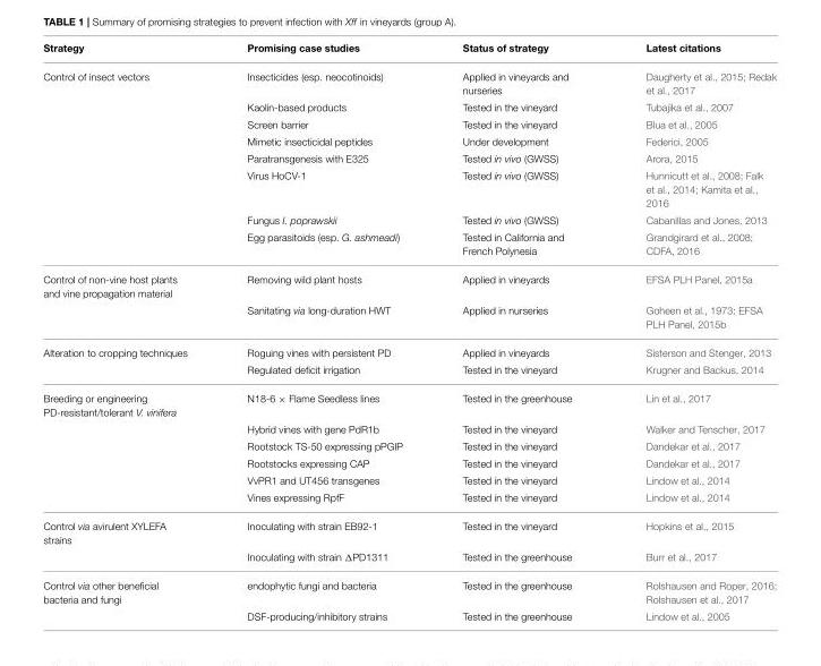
<table><thead><tr><td>Strategy</td><td>Promising case studies</td><td>Status of strategy</td><td>Latest citations</td></tr></thead><tbody><tr><td rowspan="8">Control of insect vectors</td><td>Insecticides (esp. neocotinoids)</td><td>Applied in vineyards and nurseries</td><td>Daugherty et al., 2015; Redak et al., 2017</td></tr><tr><td>Kaolin-based products</td><td>Tested in the vineyard</td><td>Tubajika et al., 2007</td></tr><tr><td>Screen barrier</td><td>Tested in the vineyard</td><td>Blua et al., 2005</td></tr><tr><td>Mimetic insecticidal peptides</td><td>Under development</td><td>Federici, 2005</td></tr><tr><td>Paratransgenesis with E325</td><td>Tested in vivo (GWSS)</td><td>Arora, 2015</td></tr><tr><td>Virus HoCV-1</td><td>Tested in vivo (GWSS)</td><td>Hunnicutt et al., 2008; Falk et al., 2014; Kamita et al., 2016</td></tr><tr><td>Fungus I. poprawskii</td><td>Tested in vivo (GWSS)</td><td>Cabanillas and Jones, 2013</td></tr><tr><td>Egg parasitoids (esp. G. ashmeadi)</td><td>Tested in California and French Polynesia</td><td>Grandgirard et al., 2008; CDFA, 2016</td></tr><tr><td rowspan="2">Control of non-vine host plants and vine propagation material</td><td>Removing wild plant hosts</td><td>Applied in vineyards</td><td>EFSA PLH Panel, 2015a</td></tr><tr><td>Sanitating via long-duration HWT</td><td>Applied in nurseries</td><td>Goheen et al., 1973; EFSA PLH Panel, 2015b</td></tr><tr><td rowspan="2">Alteration to cropping techniques</td><td>Roguing vines with persistent PD</td><td>Applied in vineyards</td><td>Sisterson and Stenger, 2013</td></tr><tr><td>Regulated deficit irrigation</td><td>Tested in the vineyard</td><td>Krugner and Backus, 2014</td></tr><tr><td rowspan="6">Breeding or engineering PD-resistant/tolerant V. vinifera</td><td>N18-6 × Flame Seedless lines</td><td>Tested in the greenhouse</td><td>Lin et al., 2017</td></tr><tr><td>Hybrid vines with gene PdR1b</td><td>Tested in the vineyard</td><td>Walker and Tenscher, 2017</td></tr><tr><td>Rootstock TS-50 expressing pPGIP</td><td>Tested in the vineyard</td><td>Dandekar et al., 2017</td></tr><tr><td>Rootstocks expressing CAP</td><td>Tested in the vineyard</td><td>Dandekar et al., 2017</td></tr><tr><td>VvPR1 and UT456 transgenes</td><td>Tested in the vineyard</td><td>Lindow et al., 2014</td></tr><tr><td>Vines expressing RpfF</td><td>Tested in the vineyard</td><td>Lindow et al., 2014</td></tr><tr><td rowspan="2">Control via avirulent XYLEFA strains</td><td>Inoculating with strain EB92-1</td><td>Tested in the vineyard</td><td>Hopkins et al., 2015</td></tr><tr><td>Inoculating with strain ΔPD1311</td><td>Tested in the greenhouse</td><td>Burr et al., 2017</td></tr><tr><td rowspan="2">Control via other beneficial bacteria and fungi</td><td>endophytic fungi and bacteria</td><td>Tested in the greenhouse</td><td>Rolshausen and Roper, 2016; Rolshausen et al., 2017</td></tr><tr><td>DSF-producing/inhibitory strains</td><td>Tested in the greenhouse</td><td>Lindow et al., 2005</td></tr></tbody></table>